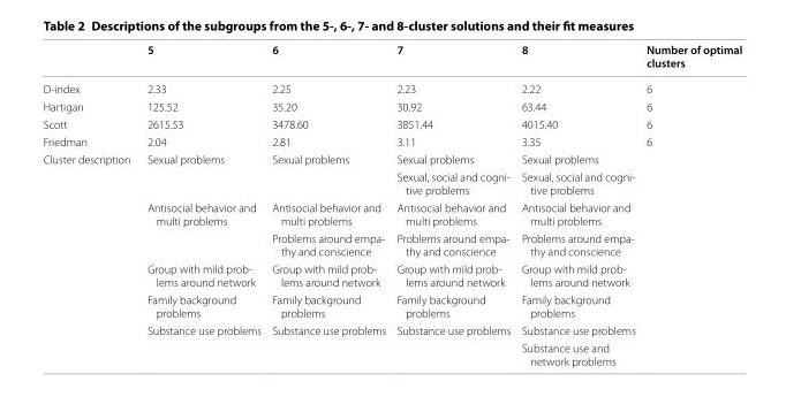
<table><thead><tr><td></td><td>5</td><td>6</td><td>7</td><td>8</td><td>Number of optimal clusters</td></tr></thead><tbody><tr><td>D-index</td><td>2.33</td><td>2.25</td><td>2.23</td><td>2.22</td><td>6</td></tr><tr><td>Hartigan</td><td>125.52</td><td>35.20</td><td>30.92</td><td>63.44</td><td>6</td></tr><tr><td>Scott</td><td>2615.53</td><td>3478.60</td><td>3851.44</td><td>4015.40</td><td>6</td></tr><tr><td>Friedman</td><td>2.04</td><td>2.81</td><td>3.11</td><td>3.35</td><td>6</td></tr><tr><td rowspan="8">Cluster description</td><td>Sexual problems</td><td>Sexual problems</td><td>Sexual problems</td><td>Sexual problems</td><td></td></tr><tr><td></td><td></td><td>Sexual, social and cogni- tive problems</td><td>Sexual, social and cogni- tive problems</td><td></td></tr><tr><td>Antisocial behavior and multi problems</td><td>Antisocial behavior and multi problems</td><td>Antisocial behavior and multi problems</td><td>Antisocial behavior and multi problems</td><td></td></tr><tr><td></td><td>Problems around empa- thy and conscience</td><td>Problems around empa- thy and conscience</td><td>Problems around empa- thy and conscience</td><td></td></tr><tr><td>Group with mild prob- lems around network</td><td>Group with mild prob- lems around network</td><td>Group with mild prob- lems around network</td><td>Group with mild prob- lems around network</td><td></td></tr><tr><td>Family background problems</td><td>Family background problems</td><td>Family background problems</td><td>Family background problems</td><td></td></tr><tr><td>Substance use problems</td><td>Substance use problems</td><td>Substance use problems</td><td>Substance use problems</td><td></td></tr><tr><td></td><td></td><td></td><td>Substance use and network problems</td><td></td></tr></tbody></table>